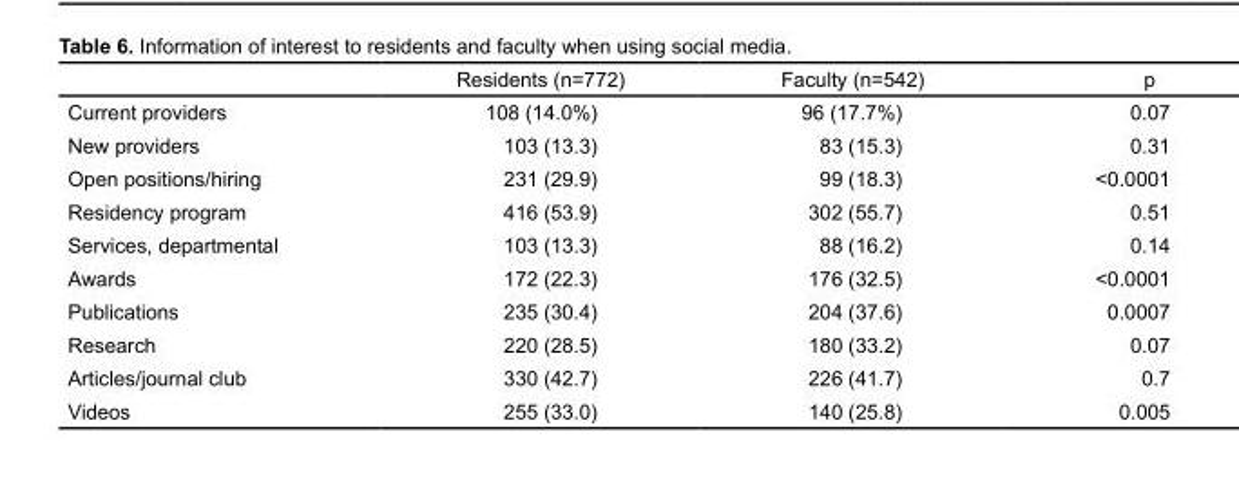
<table><thead><tr><td></td><td>Residents (n=772)</td><td>Faculty (n=542)</td><td>p</td></tr></thead><tbody><tr><td>Current providers</td><td>108 (14.0%)</td><td>96 (17.7%)</td><td>0.07</td></tr><tr><td>New providers</td><td>103 (13.3)</td><td>83 (15.3)</td><td>0.31</td></tr><tr><td>Open positions/hiring</td><td>231 (29.9)</td><td>99 (18.3)</td><td>&lt;0.0001</td></tr><tr><td>Residency program</td><td>416 (53.9)</td><td>302 (55.7)</td><td>0.51</td></tr><tr><td>Services, departmental</td><td>103 (13.3)</td><td>88 (16.2)</td><td>0.14</td></tr><tr><td>Awards</td><td>172 (22.3)</td><td>176 (32.5)</td><td>&lt;0.0001</td></tr><tr><td>Publications</td><td>235 (30.4)</td><td>204 (37.6)</td><td>0.0007</td></tr><tr><td>Research</td><td>220 (28.5)</td><td>180 (33.2)</td><td>0.07</td></tr><tr><td>Articles/journal club</td><td>330 (42.7)</td><td>226 (41.7)</td><td>0.7</td></tr><tr><td>Videos</td><td>255 (33.0)</td><td>140 (25.8)</td><td>0.005</td></tr></tbody></table>